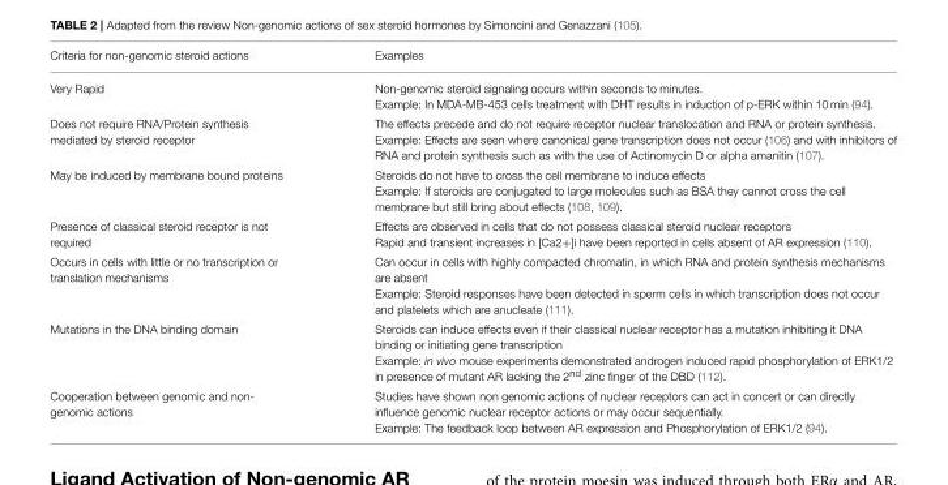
<table><thead><tr><td>Criteria for non-genomic steroid actions</td><td>Examples</td></tr></thead><tbody><tr><td>Very Rapid</td><td>Non-genomic steroid signaling occurs within seconds to minutes. Example: In MDA-MB-453 cells treatment with DHT results in induction of p-ERK within 10 min (94).</td></tr><tr><td>Does not require RNA/Protein synthesis mediated by steroid receptor</td><td>The effects precede and do not require receptor nuclear translocation and RNA or protein synthesis. Example: Effects are seen where canonical gene transcription does not occur (106) and with inhibitors of RNA and protein synthesis such as with the use of Actinomycin D or alpha amanitin (107).</td></tr><tr><td>May be induced by membrane bound proteins</td><td>Steroids do not have to cross the cell membrane to induce effects Example: If steroids are conjugated to large molecules such as BSA they cannot cross the cell membrane but still bring about effects (108, 109).</td></tr><tr><td>Presence of classical steroid receptor is not required</td><td>Effects are observed in cells that do not possess classical steroid nuclear receptors Rapid and transient increases in [Ca2+]i have been reported in cells absent of AR expression (110).</td></tr><tr><td>Occurs in cells with little or no transcription or translation mechanisms</td><td>Can occur in cells with highly compacted chromatin, in which RNA and protein synthesis mechanisms are absent Example: Steroid responses have been detected in sperm cells in which transcription does not occur and platelets which are anucleate (111).</td></tr><tr><td>Mutations in the DNA binding domain</td><td>Steroids can induce effects even if their classical nuclear receptor has a mutation inhibiting it DNA binding or initiating gene transcription Example: in vivo mouse experiments demonstrated androgen induced rapid phosphorylation of ERK1/2 in presence of mutant AR lacking the 2<sup>nd</sup> zinc finger of the DBD (112).</td></tr><tr><td>Cooperation between genomic and non- genomic actions</td><td>Studies have shown non genomic actions of nuclear receptors can act in concert or can directly influence genomic nuclear receptor actions or may occur sequentially. Example: The feedback loop between AR expression and Phosphorylation of ERK1/2 (94).</td></tr></tbody></table>